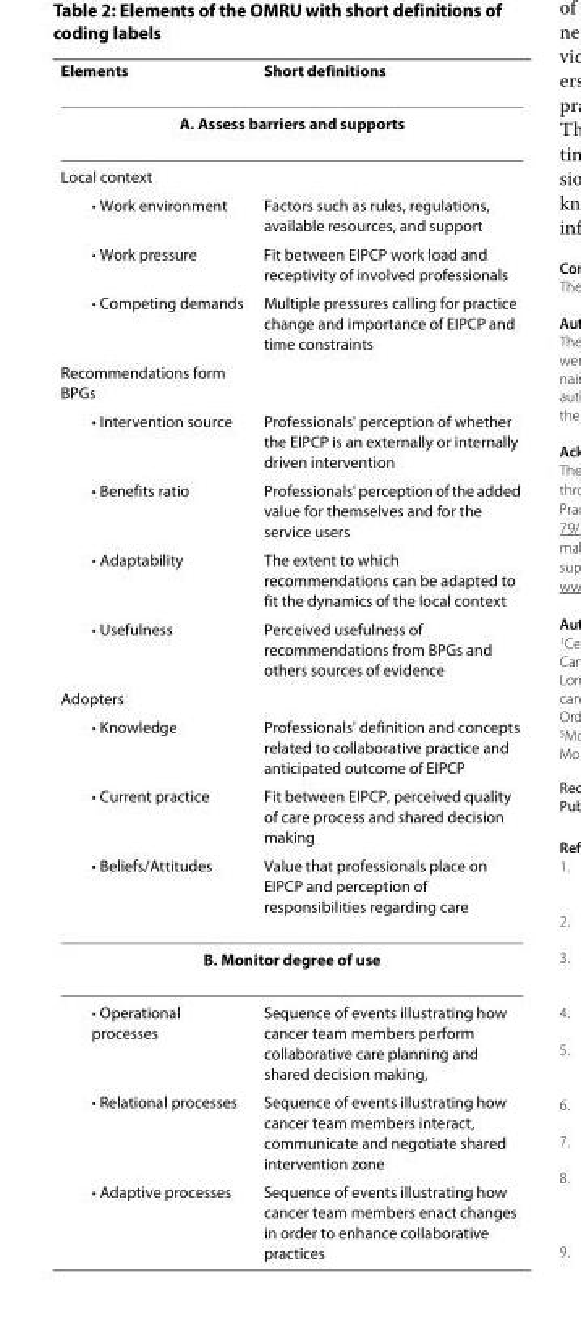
<table><thead><tr><td>Elements</td><td>Short definitions</td></tr></thead><tbody><tr><td colspan="2">A. Assess barriers and supports</td></tr><tr><td colspan="2">Local context</td></tr><tr><td>• Work environment</td><td>Factors such as rules, regulations, available resources, and support</td></tr><tr><td>• Work pressure</td><td>Fit between EIPCP work load and receptivity of involved professionals</td></tr><tr><td>• Competing demands</td><td>Multiple pressures calling for practice change and importance of EIPCP and time constraints</td></tr><tr><td colspan="2">Recommendations form BPGs</td></tr><tr><td>• Intervention source</td><td>Professionals&#x27; perception of whether the EIPCP is an externally or internally driven intervention</td></tr><tr><td>• Benefits ratio</td><td>Professionals&#x27; perception of the added value for themselves and for the service users</td></tr><tr><td>• Adaptability</td><td>The extent to which recommendations can be adapted to fit the dynamics of the local context</td></tr><tr><td>• Usefulness</td><td>Perceived usefulness of recommendations from BPGs and others sources of evidence</td></tr><tr><td colspan="2">Adopters</td></tr><tr><td>• Knowledge</td><td>Professionals&#x27; definition and concepts related to collaborative practice and anticipated outcome of EIPCP</td></tr><tr><td>• Current practice</td><td>Fit between EIPCP, perceived quality of care process and shared decision making</td></tr><tr><td>• Beliefs/Attitudes</td><td>Value that professionals place on EIPCP and perception of responsibilities regarding care</td></tr><tr><td colspan="2">B. Monitor degree of use</td></tr><tr><td>• Operational processes</td><td>Sequence of events illustrating how cancer team members perform collaborative care planning and shared decision making,</td></tr><tr><td>• Relational processes</td><td>Sequence of events illustrating how cancer team members interact, communicate and negotiate shared intervention zone</td></tr><tr><td>• Adaptive processes</td><td>Sequence of events illustrating how cancer team members enact changes in order to enhance collaborative practices</td></tr></tbody></table>